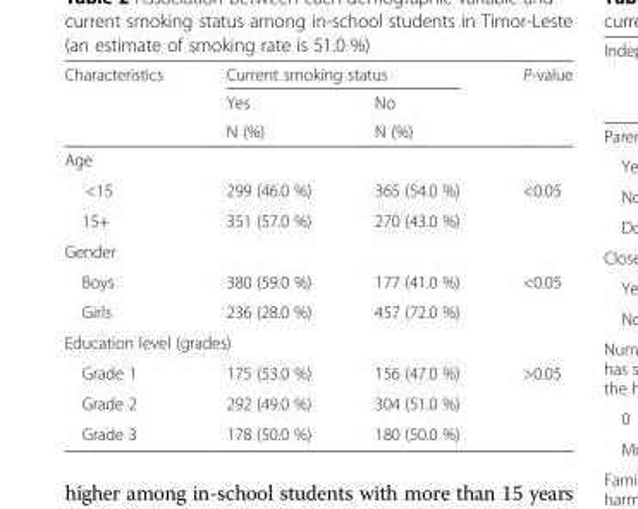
<table><thead><tr><td rowspan="3">Characteristics</td><td colspan="2">Current smoking status</td><td rowspan="3">P-value</td></tr><tr><td rowspan="2">Yes N (%)</td><td rowspan="2">No N (%)</td></tr><tr></tr></thead><tbody><tr><td colspan="4">Age</td></tr><tr><td>&lt;15</td><td>299 (46.0 %)</td><td>365 (54.0 %)</td><td rowspan="2">&lt;0.05</td></tr><tr><td>15+</td><td>351 (57.0 %)</td><td>270 (43.0 %)</td></tr><tr><td colspan="4">Gender</td></tr><tr><td>Boys</td><td>380 (59.0 %)</td><td>177 (41.0 %)</td><td rowspan="2">&lt;0.05</td></tr><tr><td>Girls</td><td>236 (28.0 %)</td><td>457 (72.0 %)</td></tr><tr><td colspan="4">Education level (grades)</td></tr><tr><td>Grade 1</td><td>175 (53.0 %)</td><td>156 (47.0 %)</td><td>&gt;0.05</td></tr><tr><td>Grade 2</td><td>292 (49.0 %)</td><td>304 (51.0 %)</td><td></td></tr><tr><td>Grade 3</td><td>178 (50.0 %)</td><td>180 (50.0 %)</td><td></td></tr></tbody></table>